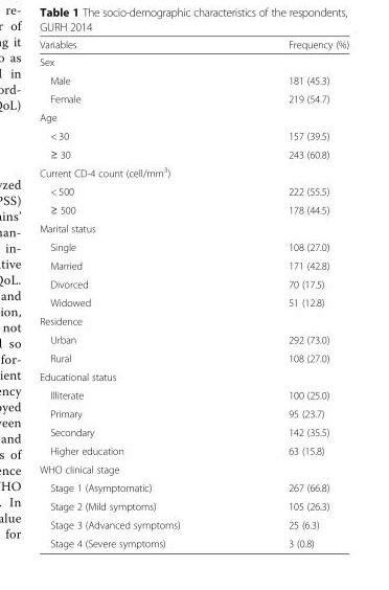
<table><thead><tr><td>Variables</td><td>Frequency (%)</td></tr></thead><tbody><tr><td colspan="2">Sex</td></tr><tr><td>Male</td><td>181 (45.3)</td></tr><tr><td>Female</td><td>219 (54.7)</td></tr><tr><td colspan="2">Age</td></tr><tr><td>&lt; 30</td><td>157 (39.5)</td></tr><tr><td>≥ 30</td><td>243 (60.8)</td></tr><tr><td colspan="2">Current CD-4 count (cell/mm<sup>3</sup>)</td></tr><tr><td>&lt; 500</td><td>222 (55.5)</td></tr><tr><td>≥ 500</td><td>178 (44.5)</td></tr><tr><td colspan="2">Marital status</td></tr><tr><td>Single</td><td>108 (27.0)</td></tr><tr><td>Married</td><td>171 (42.8)</td></tr><tr><td>Divorced</td><td>70 (17.5)</td></tr><tr><td>Widowed</td><td>51 (12.8)</td></tr><tr><td colspan="2">Residence</td></tr><tr><td>Urban</td><td>292 (73.0)</td></tr><tr><td>Rural</td><td>108 (27.0)</td></tr><tr><td colspan="2">Educational status</td></tr><tr><td>Illiterate</td><td>100 (25.0)</td></tr><tr><td>Primary</td><td>95 (23.7)</td></tr><tr><td>Secondary</td><td>142 (35.5)</td></tr><tr><td>Higher education</td><td>63 (15.8)</td></tr><tr><td colspan="2">WHO clinical stage</td></tr><tr><td>Stage 1 (Asymptomatic)</td><td>267 (66.8)</td></tr><tr><td>Stage 2 (Mild symptoms)</td><td>105 (26.3)</td></tr><tr><td>Stage 3 (Advanced symptoms)</td><td>25 (6.3)</td></tr><tr><td>Stage 4 (Severe symptoms)</td><td>3 (0.8)</td></tr></tbody></table>